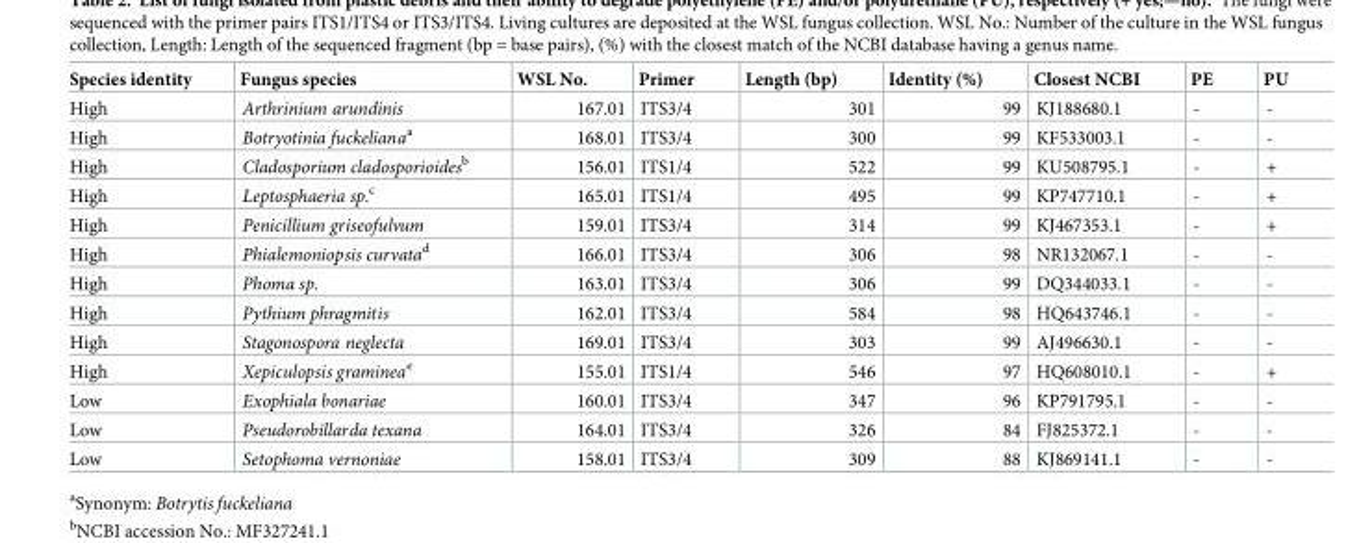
<table><thead><tr><td>Species identity</td><td>Fungus species</td><td>WSL No.</td><td>Primer</td><td>Length (bp)</td><td>Identity (%)</td><td>Closest NCBI</td><td>PE</td><td>PU</td></tr></thead><tbody><tr><td>High</td><td>Arthrinium arundinis</td><td>167.01</td><td>ITS3/4</td><td>301</td><td>99</td><td>KJ188680.1</td><td>-</td><td>-</td></tr><tr><td>High</td><td>Botryotinia fuckeliana<sup>a</sup></td><td>168.01</td><td>ITS3/4</td><td>300</td><td>99</td><td>KF533003.1</td><td>-</td><td>-</td></tr><tr><td>High</td><td>Cladosporium cladosporioides<sup>b</sup></td><td>156.01</td><td>ITS1/4</td><td>522</td><td>99</td><td>KU508795.1</td><td>-</td><td>+</td></tr><tr><td>High</td><td>Leptosphaeria sp.<sup>c</sup></td><td>165.01</td><td>ITS1/4</td><td>495</td><td>99</td><td>KP747710.1</td><td>-</td><td>+</td></tr><tr><td>High</td><td>Penicillium griseofulvum</td><td>159.01</td><td>ITS3/4</td><td>314</td><td>99</td><td>KJ467353.1</td><td>-</td><td>+</td></tr><tr><td>High</td><td>Phialemoniopsis curvata<sup>d</sup></td><td>166.01</td><td>ITS3/4</td><td>306</td><td>98</td><td>NR132067.1</td><td>-</td><td>-</td></tr><tr><td>High</td><td>Phoma sp.</td><td>163.01</td><td>ITS3/4</td><td>306</td><td>99</td><td>DQ344033.1</td><td>-</td><td>-</td></tr><tr><td>High</td><td>Pythium phragmitis</td><td>162.01</td><td>ITS3/4</td><td>584</td><td>98</td><td>HQ643746.1</td><td>-</td><td>-</td></tr><tr><td>High</td><td>Stagonospora neglecta</td><td>169.01</td><td>ITS3/4</td><td>303</td><td>99</td><td>AJ496630.1</td><td>-</td><td>-</td></tr><tr><td>High</td><td>Xepiculopsis graminea<sup>e</sup></td><td>155.01</td><td>ITS1/4</td><td>546</td><td>97</td><td>HQ608010.1</td><td>-</td><td>+</td></tr><tr><td>Low</td><td>Exophiala bonariae</td><td>160.01</td><td>ITS3/4</td><td>347</td><td>96</td><td>KP791795.1</td><td>-</td><td>-</td></tr><tr><td>Low</td><td>Pseudorobillarda texana</td><td>164.01</td><td>ITS3/4</td><td>326</td><td>84</td><td>FJ825372.1</td><td>-</td><td>-</td></tr><tr><td>Low</td><td>Setophoma vernoniae</td><td>158.01</td><td>ITS3/4</td><td>309</td><td>88</td><td>KJ869141.1</td><td>-</td><td>-</td></tr></tbody></table>